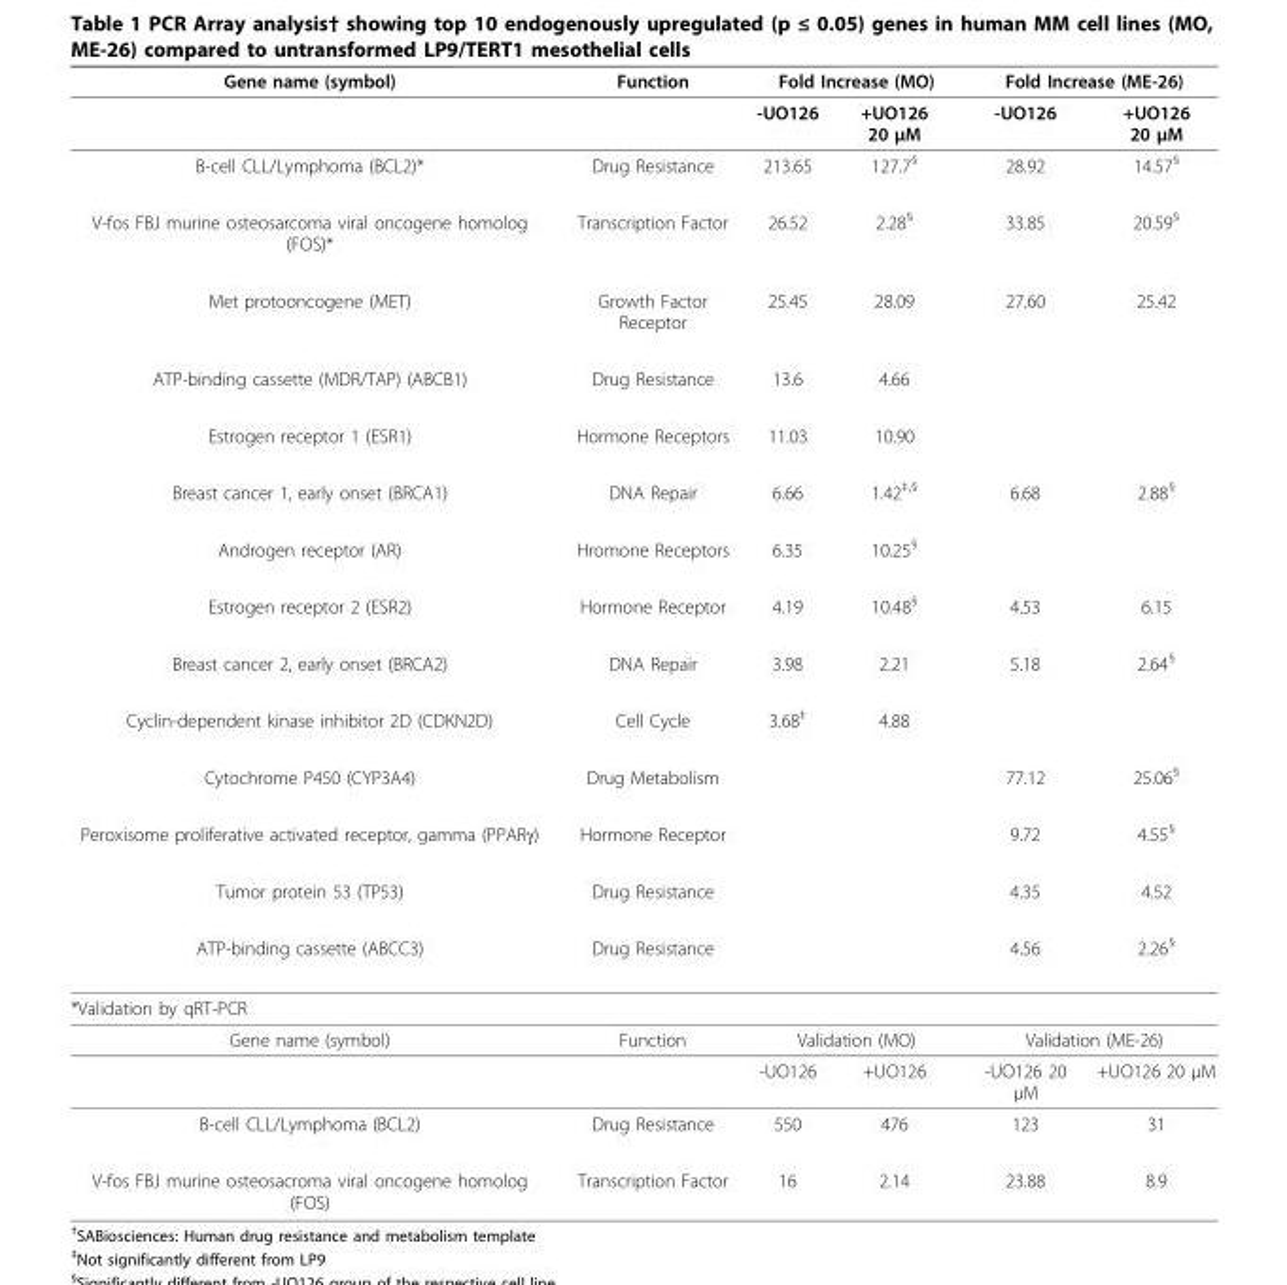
<table><thead><tr><td rowspan="2">Gene name (symbol)</td><td rowspan="2">Function</td><td colspan="2">Fold Increase (MO)</td><td colspan="2">Fold Increase (ME-26)</td></tr><tr><td>-UO126</td><td>+UO126 20 μM</td><td>-UO126</td><td>+UO126 20 μM</td></tr></thead><tbody><tr><td>B-cell CLL/Lymphoma (BCL2)*</td><td>Drug Resistance</td><td>213.65</td><td>127.7<sup>§</sup></td><td>28.92</td><td>14.57<sup>§</sup></td></tr><tr><td>V-fos FBJ murine osteosarcoma viral oncogene homolog (FOS)*</td><td>Transcription Factor</td><td>26.52</td><td>2.28<sup>§</sup></td><td>33.85</td><td>20.59<sup>§</sup></td></tr><tr><td>Met protooncogene (MET)</td><td>Growth Factor Receptor</td><td>25.45</td><td>28.09</td><td>27.60</td><td>25.42</td></tr><tr><td>ATP-binding cassette (MDR/TAP) (ABCB1)</td><td>Drug Resistance</td><td>13.6</td><td>4.66</td><td></td><td></td></tr><tr><td>Estrogen receptor 1 (ESR1)</td><td>Hormone Receptors</td><td>11.03</td><td>10.90</td><td></td><td></td></tr><tr><td>Breast cancer 1, early onset (BRCA1)</td><td>DNA Repair</td><td>6.66</td><td>1.42<sup>‡,§</sup></td><td>6.68</td><td>2.88<sup>§</sup></td></tr><tr><td>Androgen receptor (AR)</td><td>Hromone Receptors</td><td>6.35</td><td>10.25<sup>§</sup></td><td></td><td></td></tr><tr><td>Estrogen receptor 2 (ESR2)</td><td>Hormone Receptor</td><td>4.19</td><td>10.48<sup>§</sup></td><td>4.53</td><td>6.15</td></tr><tr><td>Breast cancer 2, early onset (BRCA2)</td><td>DNA Repair</td><td>3.98</td><td>2.21</td><td>5.18</td><td>2.64<sup>§</sup></td></tr><tr><td>Cyclin-dependent kinase inhibitor 2D (CDKN2D)</td><td>Cell Cycle</td><td>3.68<sup>‡</sup></td><td>4.88</td><td></td><td></td></tr><tr><td>Cytochrome P450 (CYP3A4)</td><td>Drug Metabolism</td><td></td><td></td><td>77.12</td><td>25.06<sup>§</sup></td></tr><tr><td>Peroxisome proliferative activated receptor, gamma (PPARγ)</td><td>Hormone Receptor</td><td></td><td></td><td>9.72</td><td>4.55<sup>§</sup></td></tr><tr><td>Tumor protein 53 (TP53)</td><td>Drug Resistance</td><td></td><td></td><td>4.35</td><td>4.52</td></tr><tr><td>ATP-binding cassette (ABCC3)</td><td>Drug Resistance</td><td></td><td></td><td>4.56</td><td>2.26<sup>§</sup></td></tr><tr><td colspan="6">*Validation by qRT-PCR</td></tr><tr><td rowspan="2">Gene name (symbol)</td><td>Function</td><td colspan="2">Validation (MO)</td><td colspan="2">Validation (ME-26)</td></tr><tr><td></td><td>-UO126</td><td>+UO126</td><td>-UO126 20 μM</td><td>+UO126 20 μM</td></tr><tr><td>B-cell CLL/Lymphoma (BCL2)</td><td>Drug Resistance</td><td>550</td><td>476</td><td>123</td><td>31</td></tr><tr><td>V-fos FBJ murine osteosacroma viral oncogene homolog (FOS)</td><td>Transcription Factor</td><td>16</td><td>2.14</td><td>23.88</td><td>8.9</td></tr></tbody></table>